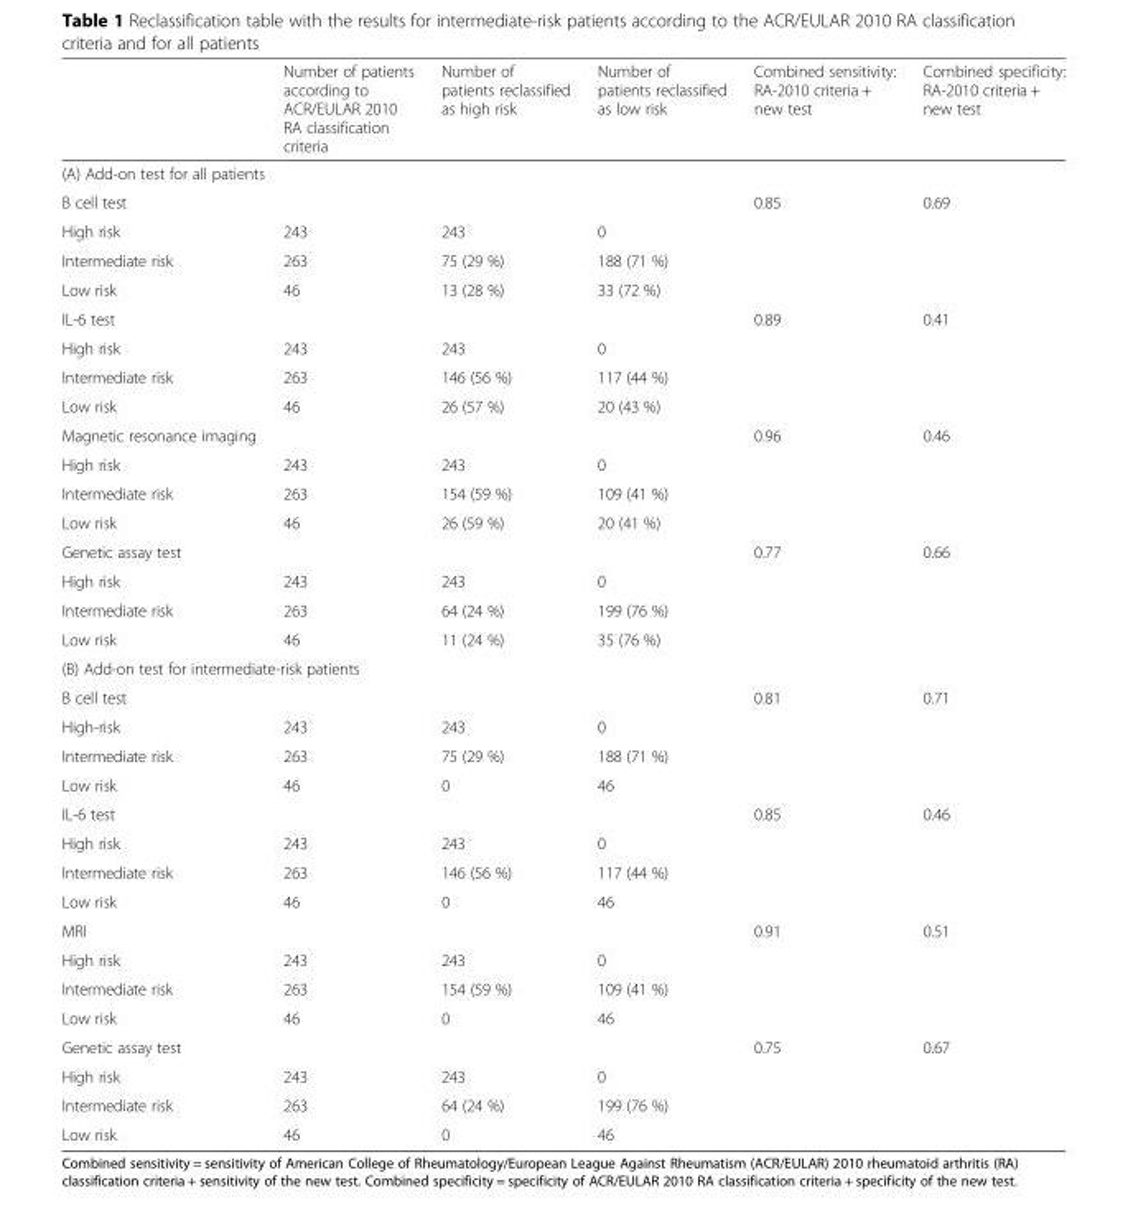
<table><thead><tr><td></td><td>Number of patients according to ACR/EULAR 2010 RA classification criteria</td><td>Number of patients reclassified as high risk</td><td>Number of patients reclassified as low risk</td><td>Combined sensitivity: RA-2010 criteria + new test</td><td>Combined specificity: RA-2010 criteria + new test</td></tr></thead><tbody><tr><td colspan="6">(A) Add-on test for all patients</td></tr><tr><td>B cell test</td><td></td><td></td><td></td><td>0.85</td><td>0.69</td></tr><tr><td>High risk</td><td>243</td><td>243</td><td>0</td><td></td><td></td></tr><tr><td>Intermediate risk</td><td>263</td><td>75 (29 %)</td><td>188 (71 %)</td><td></td><td></td></tr><tr><td>Low risk</td><td>46</td><td>13 (28 %)</td><td>33 (72 %)</td><td></td><td></td></tr><tr><td>IL-6 test</td><td></td><td></td><td></td><td>0.89</td><td>0.41</td></tr><tr><td>High risk</td><td>243</td><td>243</td><td>0</td><td></td><td></td></tr><tr><td>Intermediate risk</td><td>263</td><td>146 (56 %)</td><td>117 (44 %)</td><td></td><td></td></tr><tr><td>Low risk</td><td>46</td><td>26 (57 %)</td><td>20 (43 %)</td><td></td><td></td></tr><tr><td>Magnetic resonance imaging</td><td></td><td></td><td></td><td>0.96</td><td>0.46</td></tr><tr><td>High risk</td><td>243</td><td>243</td><td>0</td><td></td><td></td></tr><tr><td>Intermediate risk</td><td>263</td><td>154 (59 %)</td><td>109 (41 %)</td><td></td><td></td></tr><tr><td>Low risk</td><td>46</td><td>26 (59 %)</td><td>20 (41 %)</td><td></td><td></td></tr><tr><td>Genetic assay test</td><td></td><td></td><td></td><td>0.77</td><td>0.66</td></tr><tr><td>High risk</td><td>243</td><td>243</td><td>0</td><td></td><td></td></tr><tr><td>Intermediate risk</td><td>263</td><td>64 (24 %)</td><td>199 (76 %)</td><td></td><td></td></tr><tr><td>Low risk</td><td>46</td><td>11 (24 %)</td><td>35 (76 %)</td><td></td><td></td></tr><tr><td colspan="6">(B) Add-on test for intermediate-risk patients</td></tr><tr><td>B cell test</td><td></td><td></td><td></td><td>0.81</td><td>0.71</td></tr><tr><td>High-risk</td><td>243</td><td>243</td><td>0</td><td></td><td></td></tr><tr><td>Intermediate risk</td><td>263</td><td>75 (29 %)</td><td>188 (71 %)</td><td></td><td></td></tr><tr><td>Low risk</td><td>46</td><td>0</td><td>46</td><td></td><td></td></tr><tr><td>IL-6 test</td><td></td><td></td><td></td><td>0.85</td><td>0.46</td></tr><tr><td>High risk</td><td>243</td><td>243</td><td>0</td><td></td><td></td></tr><tr><td>Intermediate risk</td><td>263</td><td>146 (56 %)</td><td>117 (44 %)</td><td></td><td></td></tr><tr><td>Low risk</td><td>46</td><td>0</td><td>46</td><td></td><td></td></tr><tr><td>MRI</td><td></td><td></td><td></td><td>0.91</td><td>0.51</td></tr><tr><td>High risk</td><td>243</td><td>243</td><td>0</td><td></td><td></td></tr><tr><td>Intermediate risk</td><td>263</td><td>154 (59 %)</td><td>109 (41 %)</td><td></td><td></td></tr><tr><td>Low risk</td><td>46</td><td>0</td><td>46</td><td></td><td></td></tr><tr><td>Genetic assay test</td><td></td><td></td><td></td><td>0.75</td><td>0.67</td></tr><tr><td>High risk</td><td>243</td><td>243</td><td>0</td><td></td><td></td></tr><tr><td>Intermediate risk</td><td>263</td><td>64 (24 %)</td><td>199 (76 %)</td><td></td><td></td></tr><tr><td>Low risk</td><td>46</td><td>0</td><td>46</td><td></td><td></td></tr></tbody></table>